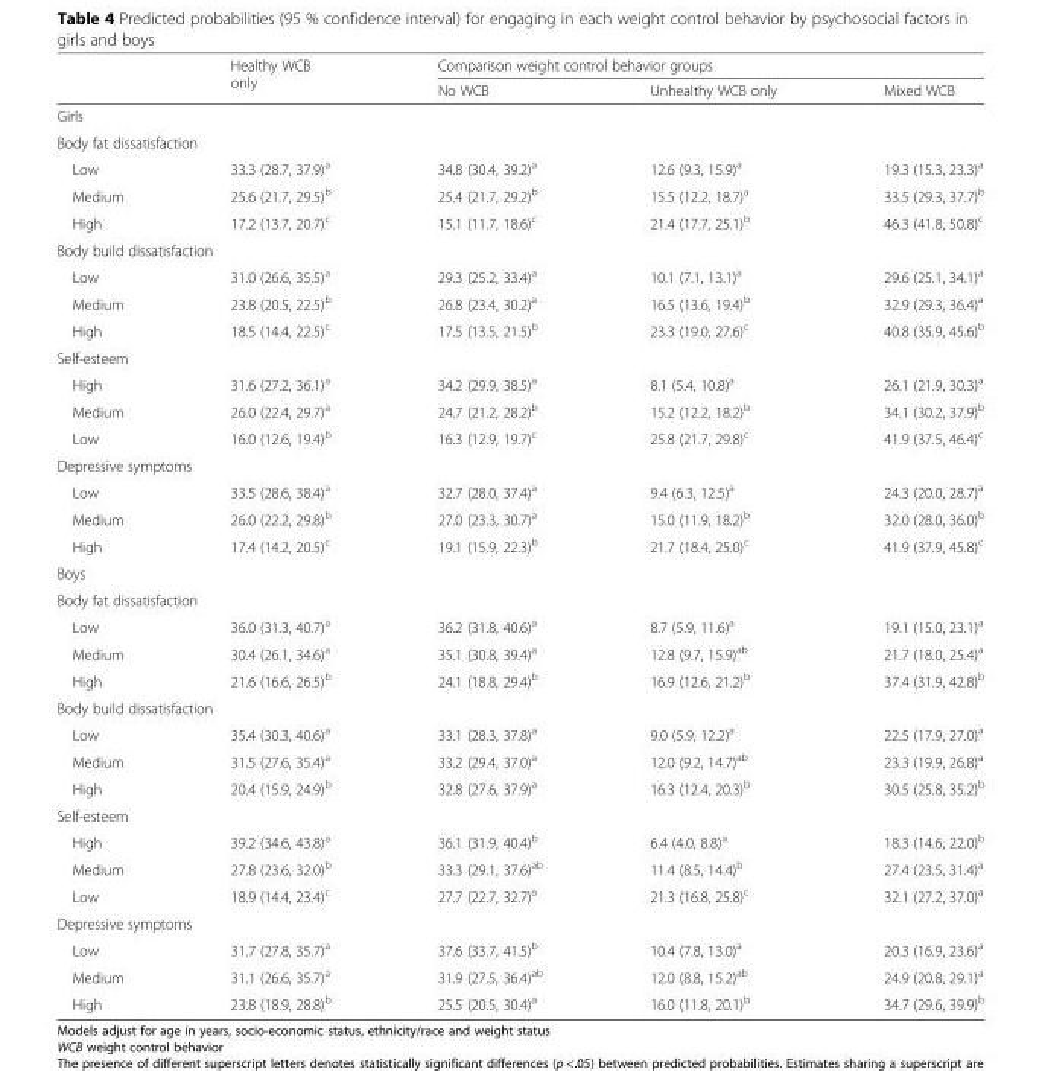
<table><thead><tr><td rowspan="2"></td><td rowspan="2">Healthy WCB only</td><td colspan="3">Comparison weight control behavior groups</td></tr><tr><td>No WCB</td><td>Unhealthy WCB only</td><td>Mixed WCB</td></tr></thead><tbody><tr><td colspan="5">Girls</td></tr><tr><td colspan="5">Body fat dissatisfaction</td></tr><tr><td>Low</td><td>33.3 (28.7, 37.9)<sup>a</sup></td><td>34.8 (30.4, 39.2)<sup>a</sup></td><td>12.6 (9.3, 15.9)<sup>a</sup></td><td>19.3 (15.3, 23.3)<sup>a</sup></td></tr><tr><td>Medium</td><td>25.6 (21.7, 29.5)<sup>b</sup></td><td>25.4 (21.7, 29.2)<sup>b</sup></td><td>15.5 (12.2, 18.7)<sup>a</sup></td><td>33.5 (29.3, 37.7)<sup>b</sup></td></tr><tr><td>High</td><td>17.2 (13.7, 20.7)<sup>c</sup></td><td>15.1 (11.7, 18.6)<sup>c</sup></td><td>21.4 (17.7, 25.1)<sup>b</sup></td><td>46.3 (41.8, 50.8)<sup>c</sup></td></tr><tr><td colspan="5">Body build dissatisfaction</td></tr><tr><td>Low</td><td>31.0 (26.6, 35.5)<sup>a</sup></td><td>29.3 (25.2, 33.4)<sup>a</sup></td><td>10.1 (7.1, 13.1)<sup>a</sup></td><td>29.6 (25.1, 34.1)<sup>a</sup></td></tr><tr><td>Medium</td><td>23.8 (20.5, 22.5)<sup>b</sup></td><td>26.8 (23.4, 30.2)<sup>a</sup></td><td>16.5 (13.6, 19.4)<sup>b</sup></td><td>32.9 (29.3, 36.4)<sup>a</sup></td></tr><tr><td>High</td><td>18.5 (14.4, 22.5)<sup>c</sup></td><td>17.5 (13.5, 21.5)<sup>b</sup></td><td>23.3 (19.0, 27.6)<sup>c</sup></td><td>40.8 (35.9, 45.6)<sup>b</sup></td></tr><tr><td colspan="5">Self-esteem</td></tr><tr><td>High</td><td>31.6 (27.2, 36.1)<sup>a</sup></td><td>34.2 (29.9, 38.5)<sup>a</sup></td><td>8.1 (5.4, 10.8)<sup>a</sup></td><td>26.1 (21.9, 30.3)<sup>a</sup></td></tr><tr><td>Medium</td><td>26.0 (22.4, 29.7)<sup>a</sup></td><td>24.7 (21.2, 28.2)<sup>b</sup></td><td>15.2 (12.2, 18.2)<sup>b</sup></td><td>34.1 (30.2, 37.9)<sup>b</sup></td></tr><tr><td>Low</td><td>16.0 (12.6, 19.4)<sup>b</sup></td><td>16.3 (12.9, 19.7)<sup>c</sup></td><td>25.8 (21.7, 29.8)<sup>c</sup></td><td>41.9 (37.5, 46.4)<sup>c</sup></td></tr><tr><td colspan="5">Depressive symptoms</td></tr><tr><td>Low</td><td>33.5 (28.6, 38.4)<sup>a</sup></td><td>32.7 (28.0, 37.4)<sup>a</sup></td><td>9.4 (6.3, 12.5)<sup>a</sup></td><td>24.3 (20.0, 28.7)<sup>a</sup></td></tr><tr><td>Medium</td><td>26.0 (22.2, 29.8)<sup>b</sup></td><td>27.0 (23.3, 30.7)<sup>a</sup></td><td>15.0 (11.9, 18.2)<sup>b</sup></td><td>32.0 (28.0, 36.0)<sup>b</sup></td></tr><tr><td>High</td><td>17.4 (14.2, 20.5)<sup>c</sup></td><td>19.1 (15.9, 22.3)<sup>b</sup></td><td>21.7 (18.4, 25.0)<sup>c</sup></td><td>41.9 (37.9, 45.8)<sup>c</sup></td></tr><tr><td colspan="5">Boys</td></tr><tr><td colspan="5">Body fat dissatisfaction</td></tr><tr><td>Low</td><td>36.0 (31.3, 40.7)<sup>a</sup></td><td>36.2 (31.8, 40.6)<sup>a</sup></td><td>8.7 (5.9, 11.6)<sup>a</sup></td><td>19.1 (15.0, 23.1)<sup>a</sup></td></tr><tr><td>Medium</td><td>30.4 (26.1, 34.6)<sup>a</sup></td><td>35.1 (30.8, 39.4)<sup>a</sup></td><td>12.8 (9.7, 15.9)<sup>ab</sup></td><td>21.7 (18.0, 25.4)<sup>a</sup></td></tr><tr><td>High</td><td>21.6 (16.6, 26.5)<sup>b</sup></td><td>24.1 (18.8, 29.4)<sup>b</sup></td><td>16.9 (12.6, 21.2)<sup>b</sup></td><td>37.4 (31.9, 42.8)<sup>b</sup></td></tr><tr><td colspan="5">Body build dissatisfaction</td></tr><tr><td>Low</td><td>35.4 (30.3, 40.6)<sup>a</sup></td><td>33.1 (28.3, 37.8)<sup>a</sup></td><td>9.0 (5.9, 12.2)<sup>a</sup></td><td>22.5 (17.9, 27.0)<sup>a</sup></td></tr><tr><td>Medium</td><td>31.5 (27.6, 35.4)<sup>a</sup></td><td>33.2 (29.4, 37.0)<sup>a</sup></td><td>12.0 (9.2, 14.7)<sup>ab</sup></td><td>23.3 (19.9, 26.8)<sup>a</sup></td></tr><tr><td>High</td><td>20.4 (15.9, 24.9)<sup>b</sup></td><td>32.8 (27.6, 37.9)<sup>a</sup></td><td>16.3 (12.4, 20.3)<sup>b</sup></td><td>30.5 (25.8, 35.2)<sup>b</sup></td></tr><tr><td colspan="5">Self-esteem</td></tr><tr><td>High</td><td>39.2 (34.6, 43.8)<sup>a</sup></td><td>36.1 (31.9, 40.4)<sup>b</sup></td><td>6.4 (4.0, 8.8)<sup>a</sup></td><td>18.3 (14.6, 22.0)<sup>b</sup></td></tr><tr><td>Medium</td><td>27.8 (23.6, 32.0)<sup>b</sup></td><td>33.3 (29.1, 37.6)<sup>ab</sup></td><td>11.4 (8.5, 14.4)<sup>b</sup></td><td>27.4 (23.5, 31.4)<sup>a</sup></td></tr><tr><td>Low</td><td>18.9 (14.4, 23.4)<sup>c</sup></td><td>27.7 (22.7, 32.7)<sup>a</sup></td><td>21.3 (16.8, 25.8)<sup>c</sup></td><td>32.1 (27.2, 37.0)<sup>a</sup></td></tr><tr><td colspan="5">Depressive symptoms</td></tr><tr><td>Low</td><td>31.7 (27.8, 35.7)<sup>a</sup></td><td>37.6 (33.7, 41.5)<sup>b</sup></td><td>10.4 (7.8, 13.0)<sup>a</sup></td><td>20.3 (16.9, 23.6)<sup>a</sup></td></tr><tr><td>Medium</td><td>31.1 (26.6, 35.7)<sup>a</sup></td><td>31.9 (27.5, 36.4)<sup>ab</sup></td><td>12.0 (8.8, 15.2)<sup>ab</sup></td><td>24.9 (20.8, 29.1)<sup>a</sup></td></tr><tr><td>High</td><td>23.8 (18.9, 28.8)<sup>b</sup></td><td>25.5 (20.5, 30.4)<sup>a</sup></td><td>16.0 (11.8, 20.1)<sup>b</sup></td><td>34.7 (29.6, 39.9)<sup>b</sup></td></tr></tbody></table>